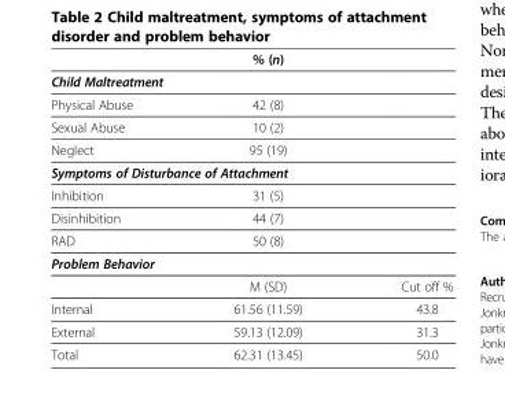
<table><thead><tr><td></td><td>% (n)</td><td></td></tr></thead><tbody><tr><td colspan="3">Child Maltreatment</td></tr><tr><td>Physical Abuse</td><td>42 (8)</td><td></td></tr><tr><td>Sexual Abuse</td><td>10 (2)</td><td></td></tr><tr><td>Neglect</td><td>95 (19)</td><td></td></tr><tr><td colspan="3">Symptoms of Disturbance of Attachment</td></tr><tr><td>Inhibition</td><td>31 (5)</td><td></td></tr><tr><td>Disinhibition</td><td>44 (7)</td><td></td></tr><tr><td>RAD</td><td>50 (8)</td><td></td></tr><tr><td colspan="3">Problem Behavior</td></tr><tr><td></td><td>M (SD)</td><td>Cut off %</td></tr><tr><td>Internal</td><td>61.56 (11.59)</td><td>43.8</td></tr><tr><td>External</td><td>59.13 (12.09)</td><td>31.3</td></tr><tr><td>Total</td><td>62.31 (13.45)</td><td>50.0</td></tr></tbody></table>